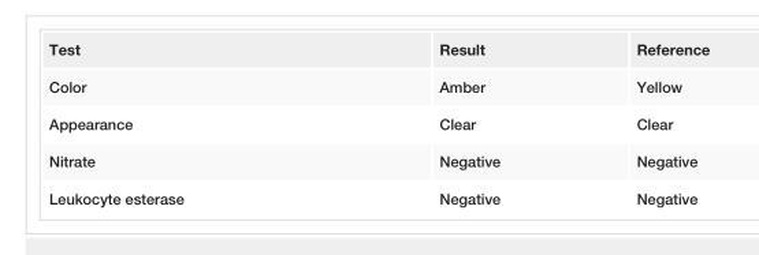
<table><tbody><tr><td>Test</td><td>Result</td><td>Reference</td></tr><tr><td>Color</td><td>Amber</td><td>Yellow</td></tr><tr><td>Appearance</td><td>Clear</td><td>Clear</td></tr><tr><td>Nitrate</td><td>Negative</td><td>Negative</td></tr><tr><td>Leukocyte esterase</td><td>Negative</td><td>Negative</td></tr></tbody></table>